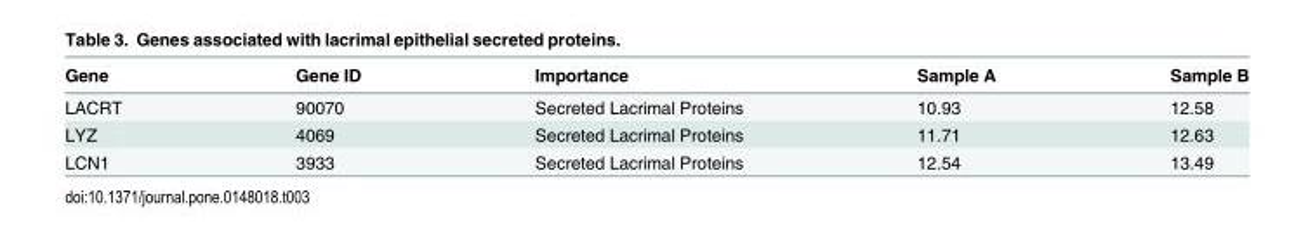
<table><thead><tr><td>Gene</td><td>Gene ID</td><td>Importance</td><td>Sample A</td><td>Sample B</td></tr></thead><tbody><tr><td>LACRT</td><td>90070</td><td>Secreted Lacrimal Proteins</td><td>10.93</td><td>12.58</td></tr><tr><td>LYZ</td><td>4069</td><td>Secreted Lacrimal Proteins</td><td>11.71</td><td>12.63</td></tr><tr><td>LCN1</td><td>3933</td><td>Secreted Lacrimal Proteins</td><td>12.54</td><td>13.49</td></tr></tbody></table>